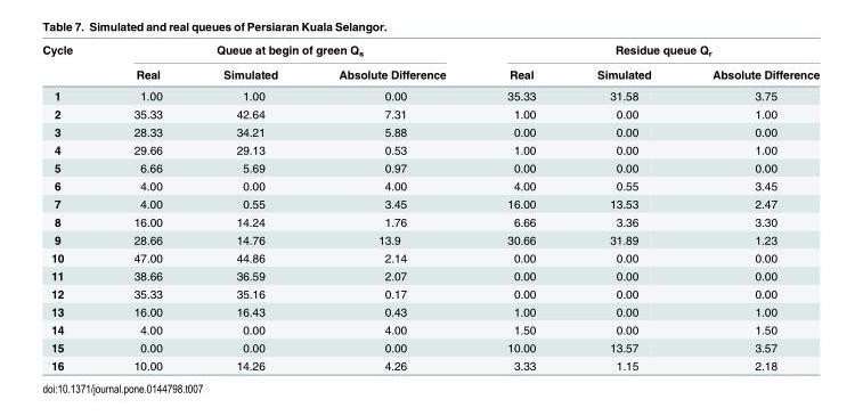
<table><thead><tr><td rowspan="2">Cycle</td><td colspan="3">Queue at begin of green Q<sub>s</sub></td><td colspan="3">Residue queue Q<sub>r</sub></td></tr><tr><td>Real</td><td>Simulated</td><td>Absolute Difference</td><td>Real</td><td>Simulated</td><td>Absolute Difference</td></tr></thead><tbody><tr><td>1</td><td>1.00</td><td>1.00</td><td>0.00</td><td>35.33</td><td>31.58</td><td>3.75</td></tr><tr><td>2</td><td>35.33</td><td>42.64</td><td>7.31</td><td>1.00</td><td>0.00</td><td>1.00</td></tr><tr><td>3</td><td>28.33</td><td>34.21</td><td>5.88</td><td>0.00</td><td>0.00</td><td>0.00</td></tr><tr><td>4</td><td>29.66</td><td>29.13</td><td>0.53</td><td>1.00</td><td>0.00</td><td>1.00</td></tr><tr><td>5</td><td>6.66</td><td>5.69</td><td>0.97</td><td>0.00</td><td>0.00</td><td>0.00</td></tr><tr><td>6</td><td>4.00</td><td>0.00</td><td>4.00</td><td>4.00</td><td>0.55</td><td>3.45</td></tr><tr><td>7</td><td>4.00</td><td>0.55</td><td>3.45</td><td>16.00</td><td>13.53</td><td>2.47</td></tr><tr><td>8</td><td>16.00</td><td>14.24</td><td>1.76</td><td>6.66</td><td>3.36</td><td>3.30</td></tr><tr><td>9</td><td>28.66</td><td>14.76</td><td>13.9</td><td>30.66</td><td>31.89</td><td>1.23</td></tr><tr><td>10</td><td>47.00</td><td>44.86</td><td>2.14</td><td>0.00</td><td>0.00</td><td>0.00</td></tr><tr><td>11</td><td>38.66</td><td>36.59</td><td>2.07</td><td>0.00</td><td>0.00</td><td>0.00</td></tr><tr><td>12</td><td>35.33</td><td>35.16</td><td>0.17</td><td>0.00</td><td>0.00</td><td>0.00</td></tr><tr><td>13</td><td>16.00</td><td>16.43</td><td>0.43</td><td>1.00</td><td>0.00</td><td>1.00</td></tr><tr><td>14</td><td>4.00</td><td>0.00</td><td>4.00</td><td>1.50</td><td>0.00</td><td>1.50</td></tr><tr><td>15</td><td>0.00</td><td>0.00</td><td>0.00</td><td>10.00</td><td>13.57</td><td>3.57</td></tr><tr><td>16</td><td>10.00</td><td>14.26</td><td>4.26</td><td>3.33</td><td>1.15</td><td>2.18</td></tr></tbody></table>